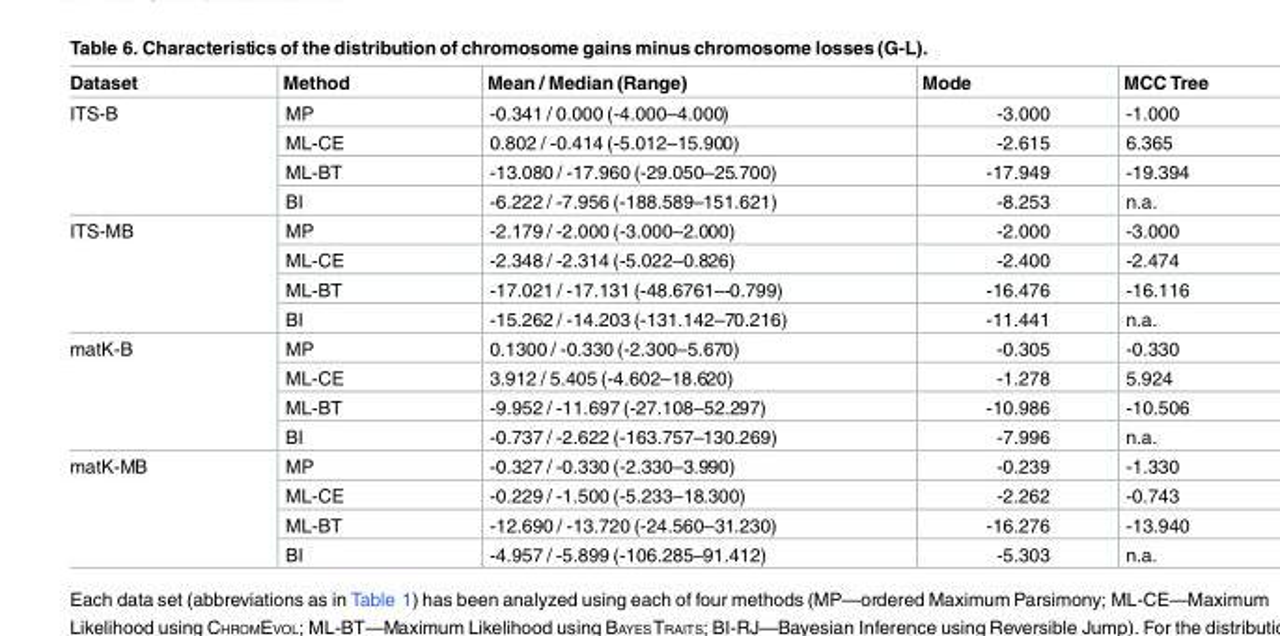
<table><thead><tr><td>Dataset</td><td>Method</td><td>Mean / Median (Range)</td><td>Mode</td><td>MCC Tree</td></tr></thead><tbody><tr><td rowspan="4">ITS-B</td><td>MP</td><td>-0.341 / 0.000 (-4.000–4.000)</td><td>-3.000</td><td>-1.000</td></tr><tr><td>ML-CE</td><td>0.802 / -0.414 (-5.012–15.900)</td><td>-2.615</td><td>6.365</td></tr><tr><td>ML-BT</td><td>-13.080 / -17.960 (-29.050–25.700)</td><td>-17.949</td><td>-19.394</td></tr><tr><td>BI</td><td>-6.222 / -7.956 (-188.589–151.621)</td><td>-8.253</td><td>n.a.</td></tr><tr><td rowspan="4">ITS-MB</td><td>MP</td><td>-2.179 / -2.000 (-3.000–2.000)</td><td>-2.000</td><td>-3.000</td></tr><tr><td>ML-CE</td><td>-2.348 / -2.314 (-5.022–0.826)</td><td>-2.400</td><td>-2.474</td></tr><tr><td>ML-BT</td><td>-17.021 / -17.131 (-48.6761–-0.799)</td><td>-16.476</td><td>-16.116</td></tr><tr><td>BI</td><td>-15.262 / -14.203 (-131.142–70.216)</td><td>-11.441</td><td>n.a.</td></tr><tr><td rowspan="4">matK-B</td><td>MP</td><td>0.1300 / -0.330 (-2.300–5.670)</td><td>-0.305</td><td>-0.330</td></tr><tr><td>ML-CE</td><td>3.912 / 5.405 (-4.602–18.620)</td><td>-1.278</td><td>5.924</td></tr><tr><td>ML-BT</td><td>-9.952 / -11.697 (-27.108–52.297)</td><td>-10.986</td><td>-10.506</td></tr><tr><td>BI</td><td>-0.737 / -2.622 (-163.757–130.269)</td><td>-7.996</td><td>n.a.</td></tr><tr><td rowspan="4">matK-MB</td><td>MP</td><td>-0.327 / -0.330 (-2.330–3.990)</td><td>-0.239</td><td>-1.330</td></tr><tr><td>ML-CE</td><td>-0.229 / -1.500 (-5.233–18.300)</td><td>-2.262</td><td>-0.743</td></tr><tr><td>ML-BT</td><td>-12.690 / -13.720 (-24.560–31.230)</td><td>-16.276</td><td>-13.940</td></tr><tr><td>BI</td><td>-4.957 / -5.899 (-106.285–91.412)</td><td>-5.303</td><td>n.a.</td></tr></tbody></table>